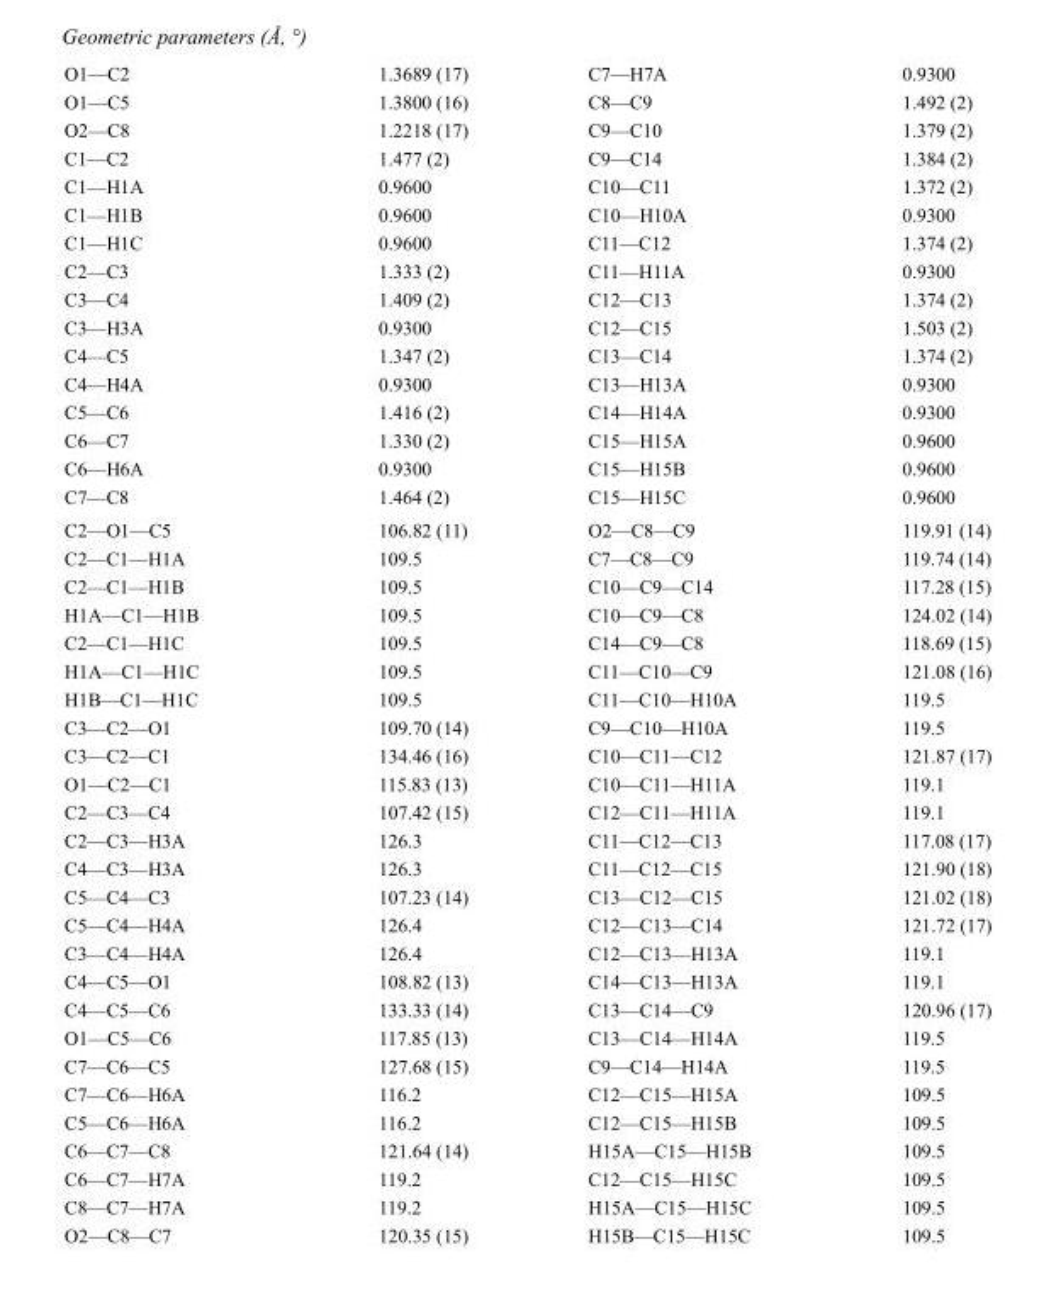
<table><tbody><tr><td>O1—C2</td><td>1.3689 (17)</td><td>C7—H7A</td><td>0.9300</td></tr><tr><td>O1—C5</td><td>1.3800 (16)</td><td>C8—C9</td><td>1.492 (2)</td></tr><tr><td>O2—C8</td><td>1.2218 (17)</td><td>C9—C10</td><td>1.379 (2)</td></tr><tr><td>C1—C2</td><td>1.477 (2)</td><td>C9—C14</td><td>1.384 (2)</td></tr><tr><td>C1—H1A</td><td>0.9600</td><td>C10—C11</td><td>1.372 (2)</td></tr><tr><td>C1—H1B</td><td>0.9600</td><td>C10—H10A</td><td>0.9300</td></tr><tr><td>C1—H1C</td><td>0.9600</td><td>C11—C12</td><td>1.374 (2)</td></tr><tr><td>C2—C3</td><td>1.333 (2)</td><td>C11—H11A</td><td>0.9300</td></tr><tr><td>C3—C4</td><td>1.409 (2)</td><td>C12—C13</td><td>1.374 (2)</td></tr><tr><td>C3—H3A</td><td>0.9300</td><td>C12—C15</td><td>1.503 (2)</td></tr><tr><td>C4—C5</td><td>1.347 (2)</td><td>C13—C14</td><td>1.374 (2)</td></tr><tr><td>C4—H4A</td><td>0.9300</td><td>C13—H13A</td><td>0.9300</td></tr><tr><td>C5—C6</td><td>1.416 (2)</td><td>C14—H14A</td><td>0.9300</td></tr><tr><td>C6—C7</td><td>1.330 (2)</td><td>C15—H15A</td><td>0.9600</td></tr><tr><td>C6—H6A</td><td>0.9300</td><td>C15—H15B</td><td>0.9600</td></tr><tr><td>C7—C8</td><td>1.464 (2)</td><td>C15—H15C</td><td>0.9600</td></tr><tr><td>C2—O1—C5</td><td>106.82 (11)</td><td>O2—C8—C9</td><td>119.91 (14)</td></tr><tr><td>C2—C1—H1A</td><td>109.5</td><td>C7—C8—C9</td><td>119.74 (14)</td></tr><tr><td>C2—C1—H1B</td><td>109.5</td><td>C10—C9—C14</td><td>117.28 (15)</td></tr><tr><td>H1A—C1—H1B</td><td>109.5</td><td>C10—C9—C8</td><td>124.02 (14)</td></tr><tr><td>C2—C1—H1C</td><td>109.5</td><td>C14—C9—C8</td><td>118.69 (15)</td></tr><tr><td>H1A—C1—H1C</td><td>109.5</td><td>C11—C10—C9</td><td>121.08 (16)</td></tr><tr><td>H1B—C1—H1C</td><td>109.5</td><td>C11—C10—H10A</td><td>119.5</td></tr><tr><td>C3—C2—O1</td><td>109.70 (14)</td><td>C9—C10—H10A</td><td>119.5</td></tr><tr><td>C3—C2—C1</td><td>134.46 (16)</td><td>C10—C11—C12</td><td>121.87 (17)</td></tr><tr><td>O1—C2—C1</td><td>115.83 (13)</td><td>C10—C11—H11A</td><td>119.1</td></tr><tr><td>C2—C3—C4</td><td>107.42 (15)</td><td>C12—C11—H11A</td><td>119.1</td></tr><tr><td>C2—C3—H3A</td><td>126.3</td><td>C11—C12—C13</td><td>117.08 (17)</td></tr><tr><td>C4—C3—H3A</td><td>126.3</td><td>C11—C12—C15</td><td>121.90 (18)</td></tr><tr><td>C5—C4—C3</td><td>107.23 (14)</td><td>C13—C12—C15</td><td>121.02 (18)</td></tr><tr><td>C5—C4—H4A</td><td>126.4</td><td>C12—C13—C14</td><td>121.72 (17)</td></tr><tr><td>C3—C4—H4A</td><td>126.4</td><td>C12—C13—H13A</td><td>119.1</td></tr><tr><td>C4—C5—O1</td><td>108.82 (13)</td><td>C14—C13—H13A</td><td>119.1</td></tr><tr><td>C4—C5—C6</td><td>133.33 (14)</td><td>C13—C14—C9</td><td>120.96 (17)</td></tr><tr><td>O1—C5—C6</td><td>117.85 (13)</td><td>C13—C14—H14A</td><td>119.5</td></tr><tr><td>C7—C6—C5</td><td>127.68 (15)</td><td>C9—C14—H14A</td><td>119.5</td></tr><tr><td>C7—C6—H6A</td><td>116.2</td><td>C12—C15—H15A</td><td>109.5</td></tr><tr><td>C5—C6—H6A</td><td>116.2</td><td>C12—C15—H15B</td><td>109.5</td></tr><tr><td>C6—C7—C8</td><td>121.64 (14)</td><td>H15A—C15—H15B</td><td>109.5</td></tr><tr><td>C6—C7—H7A</td><td>119.2</td><td>C12—C15—H15C</td><td>109.5</td></tr><tr><td>C8—C7—H7A</td><td>119.2</td><td>H15A—C15—H15C</td><td>109.5</td></tr><tr><td>O2—C8—C7</td><td>120.35 (15)</td><td>H15B—C15—H15C</td><td>109.5</td></tr></tbody></table>